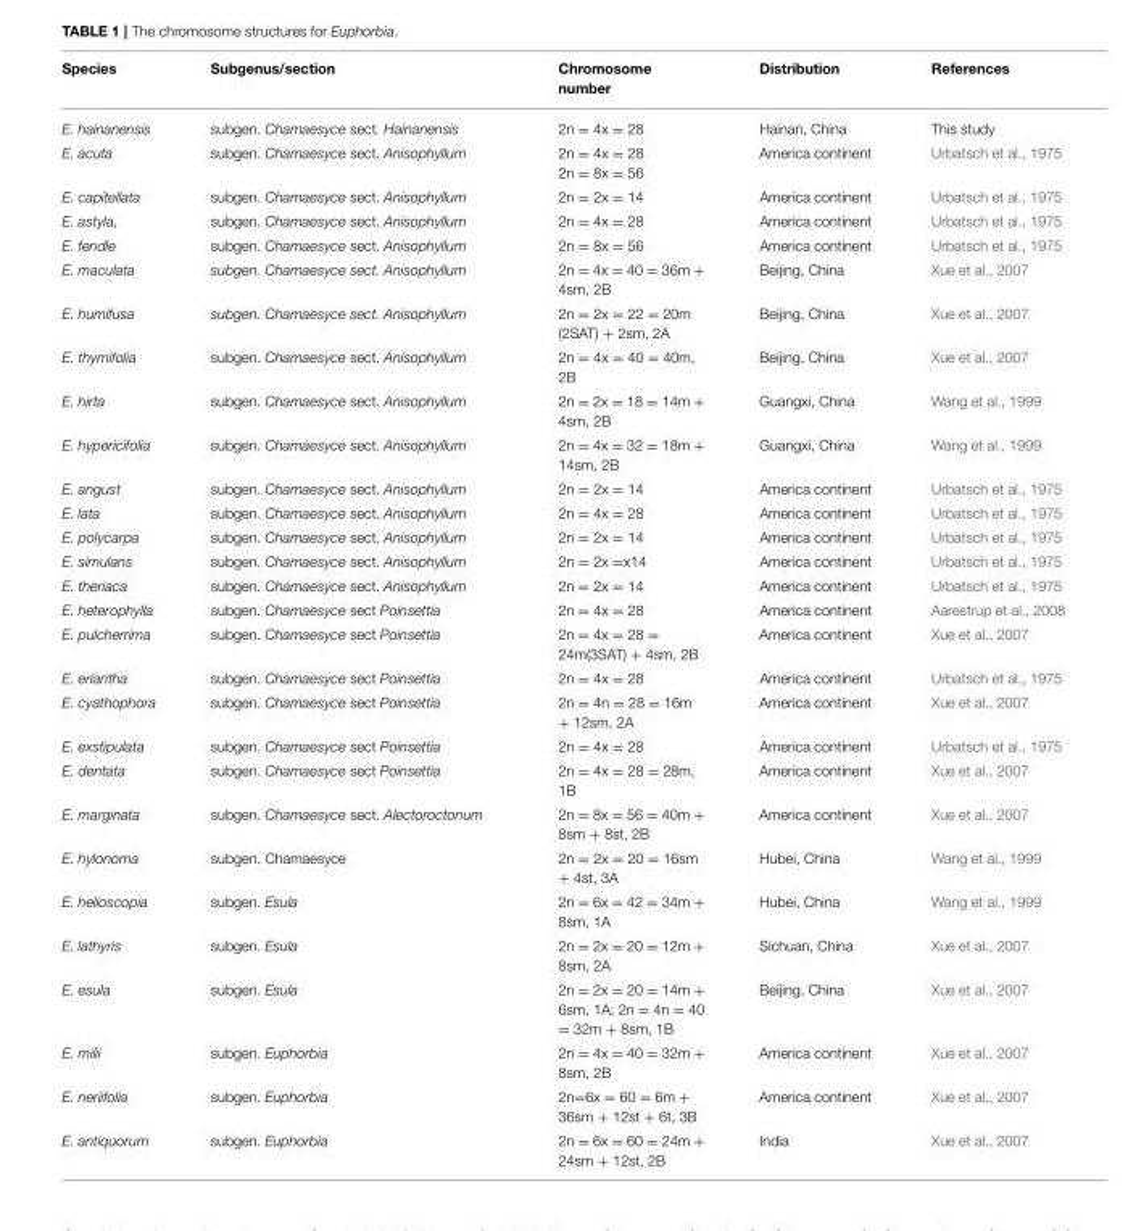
<table><thead><tr><td>Species</td><td>Subgenus/section</td><td>Chromosome number</td><td>Distribution</td><td>References</td></tr></thead><tbody><tr><td>E. hainanensis</td><td>subgen. Chamaesyce sect. Hainanensis</td><td>2n = 4x = 28</td><td>Hainan, China</td><td>This study</td></tr><tr><td>E. acuta</td><td>subgen. Chamaesyce sect. Anisophyllum</td><td>2n = 4x = 28 2n = 8x = 56</td><td>America continent</td><td>Urbatsch et al., 1975</td></tr><tr><td>E. capitellata</td><td>subgen. Chamaesyce sect. Anisophyllum</td><td>2n = 2x = 14</td><td>America continent</td><td>Urbatsch et al., 1975</td></tr><tr><td>E. astyla,</td><td>subgen. Chamaesyce sect. Anisophyllum</td><td>2n = 4x = 28</td><td>America continent</td><td>Urbatsch et al., 1975</td></tr><tr><td>E. fendle</td><td>subgen. Chamaesyce sect. Anisophyllum</td><td>2n = 8x = 56</td><td>America continent</td><td>Urbatsch et al., 1975</td></tr><tr><td>E. maculata</td><td>subgen. Chamaesyce sect. Anisophyllum</td><td>2n = 4x = 40 = 36m + 4sm, 2B</td><td>Beijing, China</td><td>Xue et al., 2007</td></tr><tr><td>E. humifusa</td><td>subgen. Chamaesyce sect. Anisophyllum</td><td>2n = 2x = 22 = 20m (2SAT) + 2sm, 2A</td><td>Beijing, China</td><td>Xue et al., 2007</td></tr><tr><td>E. thymifolia</td><td>subgen. Chamaesyce sect. Anisophyllum</td><td>2n = 4x = 40 = 40m, 2B</td><td>Beijing, China</td><td>Xue et al., 2007</td></tr><tr><td>E. hirta</td><td>subgen. Chamaesyce sect. Anisophyllum</td><td>2n = 2x = 18 = 14m + 4sm, 2B</td><td>Guangxi, China</td><td>Wang et al., 1999</td></tr><tr><td>E. hypericifolia</td><td>subgen. Chamaesyce sect. Anisophyllum</td><td>2n = 4x = 32 = 18m + 14sm, 2B</td><td>Guangxi, China</td><td>Wang et al., 1999</td></tr><tr><td>E. angust</td><td>subgen. Chamaesyce sect. Anisophyllum</td><td>2n = 2x = 14</td><td>America continent</td><td>Urbatsch et al., 1975</td></tr><tr><td>E. lata</td><td>subgen. Chamaesyce sect. Anisophyllum</td><td>2n = 4x = 28</td><td>America continent</td><td>Urbatsch et al., 1975</td></tr><tr><td>E. polycarpa</td><td>subgen. Chamaesyce sect. Anisophyllum</td><td>2n = 2x = 14</td><td>America continent</td><td>Urbatsch et al., 1975</td></tr><tr><td>E. simulans</td><td>subgen. Chamaesyce sect. Anisophyllum</td><td>2n = 2x =x14</td><td>America continent</td><td>Urbatsch et al., 1975</td></tr><tr><td>E. theriaca</td><td>subgen. Chamaesyce sect. Anisophyllum</td><td>2n = 2x = 14</td><td>America continent</td><td>Urbatsch et al., 1975</td></tr><tr><td>E. heterophylla</td><td>subgen. Chamaesyce sect Poinsettia</td><td>2n = 4x = 28</td><td>America continent</td><td>Aarestrup et al., 2008</td></tr><tr><td>E. pulcherrima</td><td>subgen. Chamaesyce sect Poinsettia</td><td>2n = 4x = 28 = 24m(3SAT) + 4sm, 2B</td><td>America continent</td><td>Xue et al., 2007</td></tr><tr><td>E. eriantha</td><td>subgen. Chamaesyce sect Poinsettia</td><td>2n = 4x = 28</td><td>America continent</td><td>Urbatsch et al., 1975</td></tr><tr><td>E. cyathophora</td><td>subgen. Chamaesyce sect Poinsettia</td><td>2n = 4n = 28 = 16m + 12sm, 2A</td><td>America continent</td><td>Xue et al., 2007</td></tr><tr><td>E. exstipulata</td><td>subgen. Chamaesyce sect Poinsettia</td><td>2n = 4x = 28</td><td>America continent</td><td>Urbatsch et al., 1975</td></tr><tr><td>E. dentata</td><td>subgen. Chamaesyce sect Poinsettia</td><td>2n = 4x = 28 = 28m, 1B</td><td>America continent</td><td>Xue et al., 2007</td></tr><tr><td>E. marginata</td><td>subgen. Chamaesyce sect. Alectoroctonum</td><td>2n = 8x = 56 = 40m + 8sm + 8st, 2B</td><td>America continent</td><td>Xue et al., 2007</td></tr><tr><td>E. hylonoma</td><td>subgen. Chamaesyce</td><td>2n = 2x = 20 = 16sm + 4st, 3A</td><td>Hubei, China</td><td>Wang et al., 1999</td></tr><tr><td>E. helioscopia</td><td>subgen. Esula</td><td>2n = 6x = 42 = 34m + 8sm, 1A</td><td>Hubei, China</td><td>Wang et al., 1999</td></tr><tr><td>E. lathyris</td><td>subgen. Esula</td><td>2n = 2x = 20 = 12m + 8sm, 2A</td><td>Sichuan, China</td><td>Xue et al., 2007</td></tr><tr><td>E. esula</td><td>subgen. Esula</td><td>2n = 2x = 20 = 14m + 6sm, 1A; 2n = 4n = 40 = 32m + 8sm, 1B</td><td>Beijing, China</td><td>Xue et al., 2007</td></tr><tr><td>E. milii</td><td>subgen. Euphorbia</td><td>2n = 4x = 40 = 32m + 8sm, 2B</td><td>America continent</td><td>Xue et al., 2007</td></tr><tr><td>E. neriifolia</td><td>subgen. Euphorbia</td><td>2n=6x = 60 = 6m + 36sm + 12st + 6t, 3B</td><td>America continent</td><td>Xue et al., 2007</td></tr><tr><td>E. antiquorum</td><td>subgen. Euphorbia</td><td>2n = 6x = 60 = 24m + 24sm + 12st, 2B</td><td>India</td><td>Xue et al., 2007</td></tr></tbody></table>